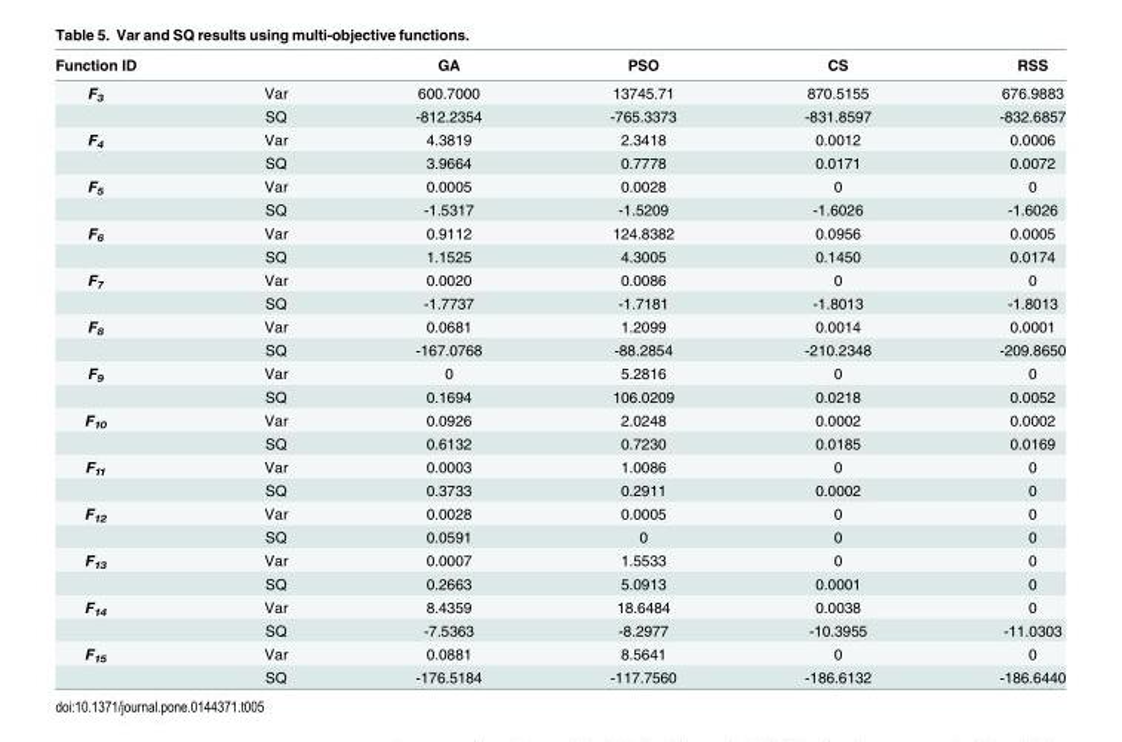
<table><thead><tr><td>Function ID</td><td></td><td>GA</td><td>PSO</td><td>CS</td><td>RSS</td></tr></thead><tbody><tr><td rowspan="2">F<sub>3</sub></td><td>Var</td><td>600.7000</td><td>13745.71</td><td>870.5155</td><td>676.9883</td></tr><tr><td>SQ</td><td>-812.2354</td><td>-765.3373</td><td>-831.8597</td><td>-832.6857</td></tr><tr><td rowspan="2">F<sub>4</sub></td><td>Var</td><td>4.3819</td><td>2.3418</td><td>0.0012</td><td>0.0006</td></tr><tr><td>SQ</td><td>3.9664</td><td>0.7778</td><td>0.0171</td><td>0.0072</td></tr><tr><td rowspan="2">F<sub>5</sub></td><td>Var</td><td>0.0005</td><td>0.0028</td><td>0</td><td>0</td></tr><tr><td>SQ</td><td>-1.5317</td><td>-1.5209</td><td>-1.6026</td><td>-1.6026</td></tr><tr><td rowspan="2">F<sub>6</sub></td><td>Var</td><td>0.9112</td><td>124.8382</td><td>0.0956</td><td>0.0005</td></tr><tr><td>SQ</td><td>1.1525</td><td>4.3005</td><td>0.1450</td><td>0.0174</td></tr><tr><td rowspan="2">F<sub>7</sub></td><td>Var</td><td>0.0020</td><td>0.0086</td><td>0</td><td>0</td></tr><tr><td>SQ</td><td>-1.7737</td><td>-1.7181</td><td>-1.8013</td><td>-1.8013</td></tr><tr><td rowspan="2">F<sub>8</sub></td><td>Var</td><td>0.0681</td><td>1.2099</td><td>0.0014</td><td>0.0001</td></tr><tr><td>SQ</td><td>-167.0768</td><td>-88.2854</td><td>-210.2348</td><td>-209.8650</td></tr><tr><td rowspan="2">F<sub>9</sub></td><td>Var</td><td>0</td><td>5.2816</td><td>0</td><td>0</td></tr><tr><td>SQ</td><td>0.1694</td><td>106.0209</td><td>0.0218</td><td>0.0052</td></tr><tr><td rowspan="2">F<sub>10</sub></td><td>Var</td><td>0.0926</td><td>2.0248</td><td>0.0002</td><td>0.0002</td></tr><tr><td>SQ</td><td>0.6132</td><td>0.7230</td><td>0.0185</td><td>0.0169</td></tr><tr><td rowspan="2">F<sub>11</sub></td><td>Var</td><td>0.0003</td><td>1.0086</td><td>0</td><td>0</td></tr><tr><td>SQ</td><td>0.3733</td><td>0.2911</td><td>0.0002</td><td>0</td></tr><tr><td rowspan="2">F<sub>12</sub></td><td>Var</td><td>0.0028</td><td>0.0005</td><td>0</td><td>0</td></tr><tr><td>SQ</td><td>0.0591</td><td>0</td><td>0</td><td>0</td></tr><tr><td rowspan="2">F<sub>13</sub></td><td>Var</td><td>0.0007</td><td>1.5533</td><td>0</td><td>0</td></tr><tr><td>SQ</td><td>0.2663</td><td>5.0913</td><td>0.0001</td><td>0</td></tr><tr><td rowspan="2">F<sub>14</sub></td><td>Var</td><td>8.4359</td><td>18.6484</td><td>0.0038</td><td>0</td></tr><tr><td>SQ</td><td>-7.5363</td><td>-8.2977</td><td>-10.3955</td><td>-11.0303</td></tr><tr><td rowspan="2">F<sub>15</sub></td><td>Var</td><td>0.0881</td><td>8.5641</td><td>0</td><td>0</td></tr><tr><td>SQ</td><td>-176.5184</td><td>-117.7560</td><td>-186.6132</td><td>-186.6440</td></tr></tbody></table>